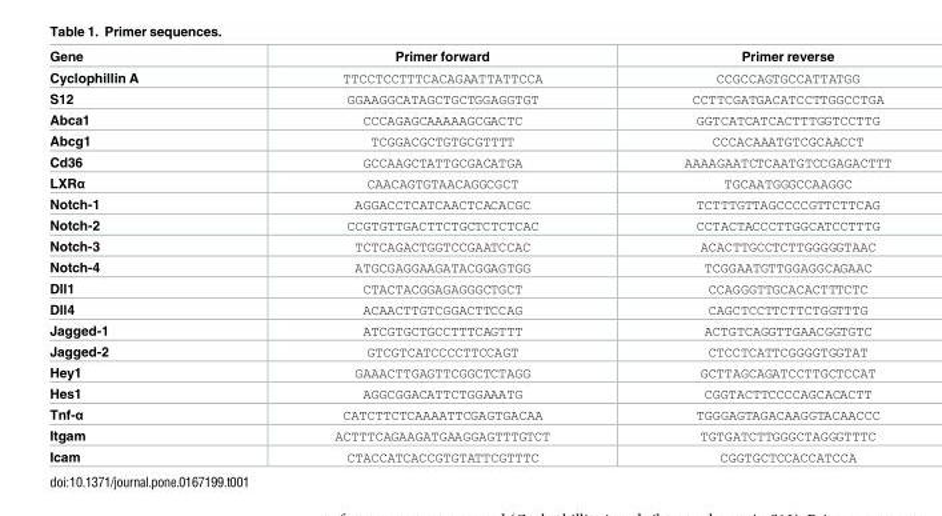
<table><thead><tr><td>Gene</td><td>Primer forward</td><td>Primer reverse</td></tr></thead><tbody><tr><td>Cyclophillin A</td><td>TTCCTCCTTTCACAGAATTATTCCA</td><td>CCGCCAGTGCCATTATGG</td></tr><tr><td>S12</td><td>GGAAGGCATAGCTGCTGGAGGTGT</td><td>CCTTCGATGACATCCTTGGCCTGA</td></tr><tr><td>Abca1</td><td>CCCAGAGCAAAAAGCGACTC</td><td>GGTCATCATCACTTTGGTCCTTG</td></tr><tr><td>Abcg1</td><td>TCGGACGCTGTGCGTTTT</td><td>CCCACAAATGTCGCAACCT</td></tr><tr><td>Cd36</td><td>GCCAAGCTATTGCGACATGA</td><td>AAAAGAATCTCAATGTCCGAGACTTT</td></tr><tr><td>LXRα</td><td>CAACAGTGTAACAGGCGCT</td><td>TGCAATGGGCCAAGGC</td></tr><tr><td>Notch-1</td><td>AGGACCTCATCAACTCACACGC</td><td>TCTTTGTTAGCCCCGTTCTTCAG</td></tr><tr><td>Notch-2</td><td>CCGTGTTGACTTCTGCTCTCTCAC</td><td>CCTACTACCCTTGGCATCCTTTG</td></tr><tr><td>Notch-3</td><td>TCTCAGACTGGTCCGAATCCAC</td><td>ACACTTGCCTCTTGGGGGTAAC</td></tr><tr><td>Notch-4</td><td>ATGCGAGGAAGATACGGAGTGG</td><td>TCGGAATGTTGGAGGCAGAAC</td></tr><tr><td>Dll1</td><td>CTACTACGGAGAGGGCTGCT</td><td>CCAGGGTTGCACACTTTCTC</td></tr><tr><td>Dll4</td><td>ACAACTTGTCGGACTTCCAG</td><td>CAGCTCCTTCTTCTGGTTTG</td></tr><tr><td>Jagged-1</td><td>ATCGTGCTGCCTTTCAGTTT</td><td>ACTGTCAGGTTGAACGGTGTC</td></tr><tr><td>Jagged-2</td><td>GTCGTCATCCCCTTCCAGT</td><td>CTCCTCATTCGGGGTGGTAT</td></tr><tr><td>Hey1</td><td>GAAACTTGAGTTCGGCTCTAGG</td><td>GCTTAGCAGATCCTTGCTCCAT</td></tr><tr><td>Hes1</td><td>AGGCGGACATTCTGGAAATG</td><td>CGGTACTTCCCCAGCACACTT</td></tr><tr><td>Tnf-α</td><td>CATCTTCTCAAAATTCGAGTGACAA</td><td>TGGGAGTAGACAAGGTACAACCC</td></tr><tr><td>Itgam</td><td>ACTTTCAGAAGATGAAGGAGTTTGTCT</td><td>TGTGATCTTGGGCTAGGGTTTC</td></tr><tr><td>Icam</td><td>CTACCATCACCGTGTATTCGTTTC</td><td>CGGTGCTCCACCATCCA</td></tr></tbody></table>